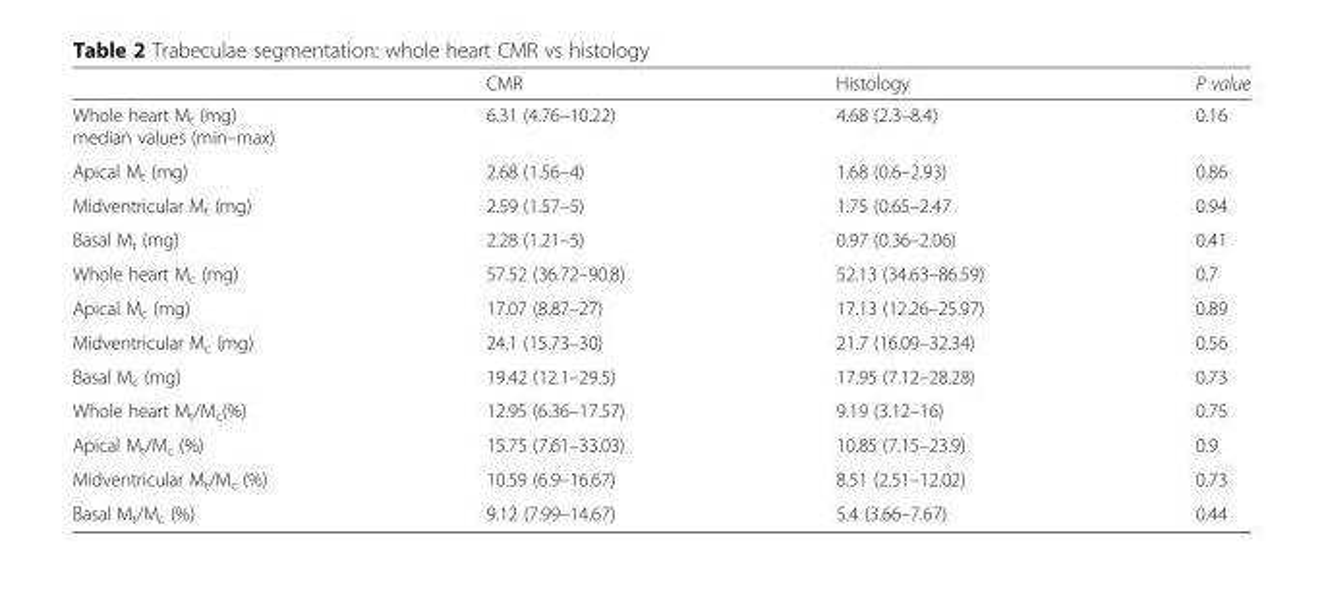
<table><thead><tr><td></td><td>CMR</td><td>Histology</td><td>P value</td></tr></thead><tbody><tr><td>Whole heart M<sub>t</sub> (mg) median values (min–max)</td><td>6.31 (4.76–10.22)</td><td>4.68 (2.3–8.4)</td><td>0.16</td></tr><tr><td>Apical M<sub>t</sub> (mg)</td><td>2.68 (1.56–4)</td><td>1.68 (0.6–2.93)</td><td>0.86</td></tr><tr><td>Midventricular M<sub>t</sub> (mg)</td><td>2.59 (1.57–5)</td><td>1.75 (0.65–2.47</td><td>0.94</td></tr><tr><td>Basal M<sub>t</sub> (mg)</td><td>2.28 (1.21–5)</td><td>0.97 (0.36–2.06)</td><td>0.41</td></tr><tr><td>Whole heart M<sub>c</sub> (mg)</td><td>57.52 (36.72–90.8)</td><td>52.13 (34.63–86.59)</td><td>0.7</td></tr><tr><td>Apical M<sub>c</sub> (mg)</td><td>17.07 (8.87–27)</td><td>17.13 (12.26–25.97)</td><td>0.89</td></tr><tr><td>Midventricular M<sub>c</sub> (mg)</td><td>24.1 (15.73–30)</td><td>21.7 (16.09–32.34)</td><td>0.56</td></tr><tr><td>Basal M<sub>c</sub> (mg)</td><td>19.42 (12.1–29.5)</td><td>17.95 (7.12–28.28)</td><td>0.73</td></tr><tr><td>Whole heart M<sub>t</sub>/M<sub>c</sub>(%)</td><td>12.95 (6.36–17.57)</td><td>9.19 (3.12–16)</td><td>0.75</td></tr><tr><td>Apical M<sub>t</sub>/M<sub>c</sub> (%)</td><td>15.75 (7.61–33.03)</td><td>10.85 (7.15–23.9)</td><td>0.9</td></tr><tr><td>Midventricular M<sub>t</sub>/M<sub>c</sub> (%)</td><td>10.59 (6.9–16.67)</td><td>8.51 (2.51–12.02)</td><td>0.73</td></tr><tr><td>Basal M<sub>t</sub>/M<sub>c</sub> (%)</td><td>9.12 (7.99–14.67)</td><td>5.4 (3.66–7.67)</td><td>0.44</td></tr></tbody></table>